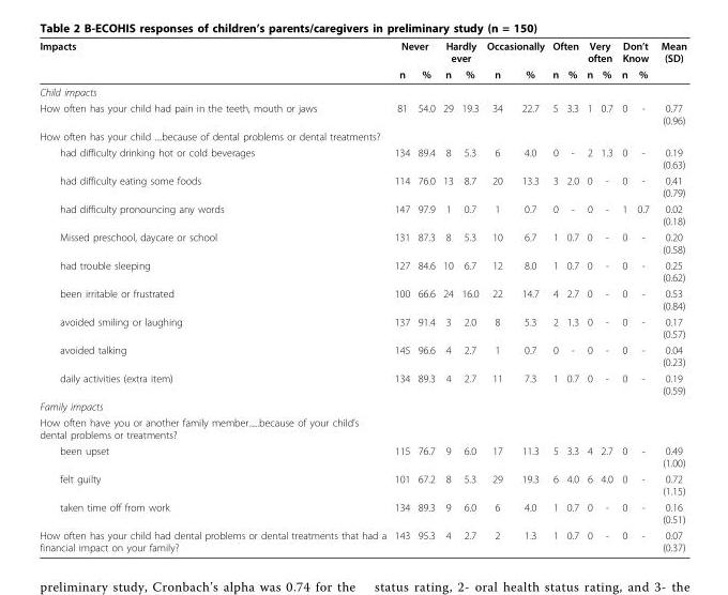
<table><thead><tr><td rowspan="2">Impacts</td><td colspan="2">Never</td><td colspan="2">Hardly ever</td><td colspan="2">Occasionally</td><td colspan="2">Often</td><td colspan="2">Very often</td><td colspan="2">Don’t Know</td><td rowspan="2">Mean (SD)</td></tr><tr><td>n</td><td>%</td><td>n</td><td>%</td><td>n</td><td>%</td><td>n</td><td>%</td><td>n</td><td>%</td><td>n</td><td>%</td></tr></thead><tbody><tr><td colspan="14">Child impacts</td></tr><tr><td>How often has your child had pain in the teeth, mouth or jaws</td><td>81</td><td>54.0</td><td>29</td><td>19.3</td><td>34</td><td>22.7</td><td>5</td><td>3.3</td><td>1</td><td>0.7</td><td>0</td><td>-</td><td>0.77 (0.96)</td></tr><tr><td colspan="14">How often has your child ....because of dental problems or dental treatments?</td></tr><tr><td>had difficulty drinking hot or cold beverages</td><td>134</td><td>89.4</td><td>8</td><td>5.3</td><td>6</td><td>4.0</td><td>0</td><td>-</td><td>2</td><td>1.3</td><td>0</td><td>-</td><td>0.19 (0.63)</td></tr><tr><td>had difficulty eating some foods</td><td>114</td><td>76.0</td><td>13</td><td>8.7</td><td>20</td><td>13.3</td><td>3</td><td>2.0</td><td>0</td><td>-</td><td>0</td><td>-</td><td>0.41 (0.79)</td></tr><tr><td>had difficulty pronouncing any words</td><td>147</td><td>97.9</td><td>1</td><td>0.7</td><td>1</td><td>0.7</td><td>0</td><td>-</td><td>0</td><td>-</td><td>1</td><td>0.7</td><td>0.02 (0.18)</td></tr><tr><td>Missed preschool, daycare or school</td><td>131</td><td>87.3</td><td>8</td><td>5.3</td><td>10</td><td>6.7</td><td>1</td><td>0.7</td><td>0</td><td>-</td><td>0</td><td>-</td><td>0.20 (0.58)</td></tr><tr><td>had trouble sleeping</td><td>127</td><td>84.6</td><td>10</td><td>6.7</td><td>12</td><td>8.0</td><td>1</td><td>0.7</td><td>0</td><td>-</td><td>0</td><td>-</td><td>0.25 (0.62)</td></tr><tr><td>been irritable or frustrated</td><td>100</td><td>66.6</td><td>24</td><td>16.0</td><td>22</td><td>14.7</td><td>4</td><td>2.7</td><td>0</td><td>-</td><td>0</td><td>-</td><td>0.53 (0.84)</td></tr><tr><td>avoided smiling or laughing</td><td>137</td><td>91.4</td><td>3</td><td>2.0</td><td>8</td><td>5.3</td><td>2</td><td>1.3</td><td>0</td><td>-</td><td>0</td><td>-</td><td>0.17 (0.57)</td></tr><tr><td>avoided talking</td><td>145</td><td>96.6</td><td>4</td><td>2.7</td><td>1</td><td>0.7</td><td>0</td><td>-</td><td>0</td><td>-</td><td>0</td><td>-</td><td>0.04 (0.23)</td></tr><tr><td>daily activities (extra item)</td><td>134</td><td>89.3</td><td>4</td><td>2.7</td><td>11</td><td>7.3</td><td>1</td><td>0.7</td><td>0</td><td>-</td><td>0</td><td>-</td><td>0.19 (0.59)</td></tr><tr><td colspan="14">Family impacts</td></tr><tr><td colspan="14">How often have you or another family member......because of your child’s dental problems or treatments?</td></tr><tr><td>been upset</td><td>115</td><td>76.7</td><td>9</td><td>6.0</td><td>17</td><td>11.3</td><td>5</td><td>3.3</td><td>4</td><td>2.7</td><td>0</td><td>-</td><td>0.49 (1.00)</td></tr><tr><td>felt guilty</td><td>101</td><td>67.2</td><td>8</td><td>5.3</td><td>29</td><td>19.3</td><td>6</td><td>4.0</td><td>6</td><td>4.0</td><td>0</td><td>-</td><td>0.72 (1.15)</td></tr><tr><td>taken time off from work</td><td>134</td><td>89.3</td><td>9</td><td>6.0</td><td>6</td><td>4.0</td><td>1</td><td>0.7</td><td>0</td><td>-</td><td>0</td><td>-</td><td>0.16 (0.51)</td></tr><tr><td>How often has your child had dental problems or dental treatments that had a financial impact on your family?</td><td>143</td><td>95.3</td><td>4</td><td>2.7</td><td>2</td><td>1.3</td><td>1</td><td>0.7</td><td>0</td><td>-</td><td>0</td><td>-</td><td>0.07 (0.37)</td></tr></tbody></table>